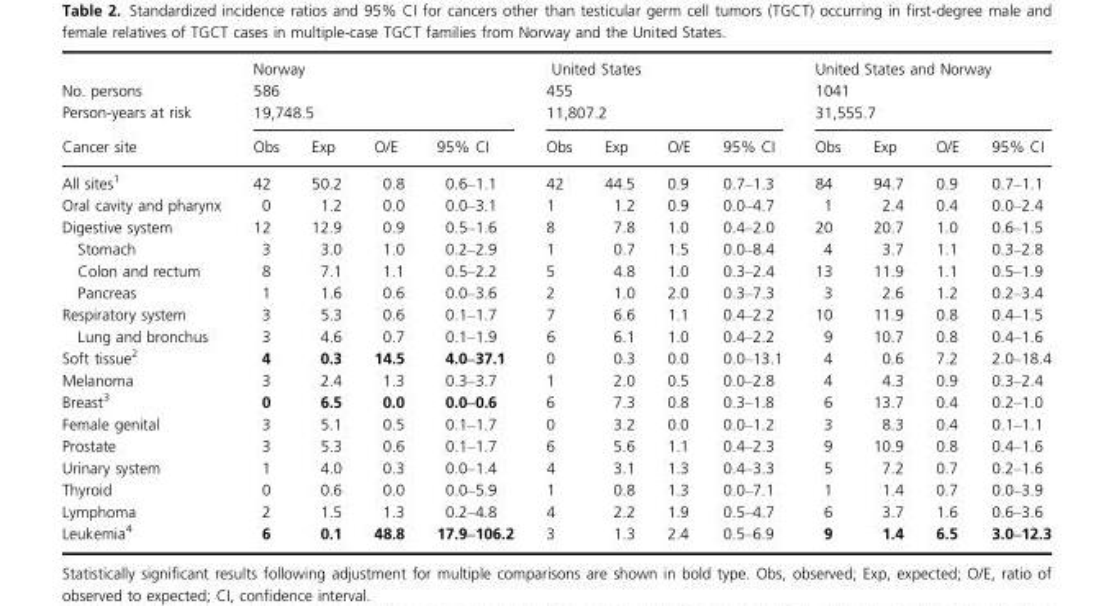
<table><thead><tr><td rowspan="4">No. persons Person-years at risk Cancer site</td><td rowspan="3" colspan="4">Norway 586 19,748.5</td><td rowspan="3" colspan="4">United States 455 11,807.2</td><td rowspan="3" colspan="4">United States and Norway 1041 31,555.7</td></tr><tr></tr><tr></tr><tr><td>Obs</td><td>Exp</td><td>O/E</td><td>95% CI</td><td>Obs</td><td>Exp</td><td>O/E</td><td>95% CI</td><td>Obs</td><td>Exp</td><td>O/E</td><td>95% CI</td></tr></thead><tbody><tr><td>All sites<sup>1</sup></td><td>42</td><td>50.2</td><td>0.8</td><td>0.6–1.1</td><td>42</td><td>44.5</td><td>0.9</td><td>0.7–1.3</td><td>84</td><td>94.7</td><td>0.9</td><td>0.7–1.1</td></tr><tr><td>Oral cavity and pharynx</td><td>0</td><td>1.2</td><td>0.0</td><td>0.0–3.1</td><td>1</td><td>1.2</td><td>0.9</td><td>0.0–4.7</td><td>1</td><td>2.4</td><td>0.4</td><td>0.0–2.4</td></tr><tr><td>Digestive system</td><td>12</td><td>12.9</td><td>0.9</td><td>0.5–1.6</td><td>8</td><td>7.8</td><td>1.0</td><td>0.4–2.0</td><td>20</td><td>20.7</td><td>1.0</td><td>0.6–1.5</td></tr><tr><td>Stomach</td><td>3</td><td>3.0</td><td>1.0</td><td>0.2–2.9</td><td>1</td><td>0.7</td><td>1.5</td><td>0.0–8.4</td><td>4</td><td>3.7</td><td>1.1</td><td>0.3–2.8</td></tr><tr><td>Colon and rectum</td><td>8</td><td>7.1</td><td>1.1</td><td>0.5–2.2</td><td>5</td><td>4.8</td><td>1.0</td><td>0.3–2.4</td><td>13</td><td>11.9</td><td>1.1</td><td>0.5–1.9</td></tr><tr><td>Pancreas</td><td>1</td><td>1.6</td><td>0.6</td><td>0.0–3.6</td><td>2</td><td>1.0</td><td>2.0</td><td>0.3–7.3</td><td>3</td><td>2.6</td><td>1.2</td><td>0.2–3.4</td></tr><tr><td>Respiratory system</td><td>3</td><td>5.3</td><td>0.6</td><td>0.1–1.7</td><td>7</td><td>6.6</td><td>1.1</td><td>0.4–2.2</td><td>10</td><td>11.9</td><td>0.8</td><td>0.4–1.5</td></tr><tr><td>Lung and bronchus</td><td>3</td><td>4.6</td><td>0.7</td><td>0.1–1.9</td><td>6</td><td>6.1</td><td>1.0</td><td>0.4–2.2</td><td>9</td><td>10.7</td><td>0.8</td><td>0.4–1.6</td></tr><tr><td>Soft tissue<sup>2</sup></td><td>4</td><td>0.3</td><td>14.5</td><td>4.0–37.1</td><td>0</td><td>0.3</td><td>0.0</td><td>0.0–13.1</td><td>4</td><td>0.6</td><td>7.2</td><td>2.0–18.4</td></tr><tr><td>Melanoma</td><td>3</td><td>2.4</td><td>1.3</td><td>0.3–3.7</td><td>1</td><td>2.0</td><td>0.5</td><td>0.0–2.8</td><td>4</td><td>4.3</td><td>0.9</td><td>0.3–2.4</td></tr><tr><td>Breast<sup>3</sup></td><td>0</td><td>6.5</td><td>0.0</td><td>0.0–0.6</td><td>6</td><td>7.3</td><td>0.8</td><td>0.3–1.8</td><td>6</td><td>13.7</td><td>0.4</td><td>0.2–1.0</td></tr><tr><td>Female genital</td><td>3</td><td>5.1</td><td>0.5</td><td>0.1–1.7</td><td>0</td><td>3.2</td><td>0.0</td><td>0.0–1.2</td><td>3</td><td>8.3</td><td>0.4</td><td>0.1–1.1</td></tr><tr><td>Prostate</td><td>3</td><td>5.3</td><td>0.6</td><td>0.1–1.7</td><td>6</td><td>5.6</td><td>1.1</td><td>0.4–2.3</td><td>9</td><td>10.9</td><td>0.8</td><td>0.4–1.6</td></tr><tr><td>Urinary system</td><td>1</td><td>4.0</td><td>0.3</td><td>0.0–1.4</td><td>4</td><td>3.1</td><td>1.3</td><td>0.4–3.3</td><td>5</td><td>7.2</td><td>0.7</td><td>0.2–1.6</td></tr><tr><td>Thyroid</td><td>0</td><td>0.6</td><td>0.0</td><td>0.0–5.9</td><td>1</td><td>0.8</td><td>1.3</td><td>0.0–7.1</td><td>1</td><td>1.4</td><td>0.7</td><td>0.0–3.9</td></tr><tr><td>Lymphoma</td><td>2</td><td>1.5</td><td>1.3</td><td>0.2–4.8</td><td>4</td><td>2.2</td><td>1.9</td><td>0.5–4.7</td><td>6</td><td>3.7</td><td>1.6</td><td>0.6–3.6</td></tr><tr><td>Leukemia<sup>4</sup></td><td>6</td><td>0.1</td><td>48.8</td><td>17.9–106.2</td><td>3</td><td>1.3</td><td>2.4</td><td>0.5–6.9</td><td>9</td><td>1.4</td><td>6.5</td><td>3.0–12.3</td></tr></tbody></table>